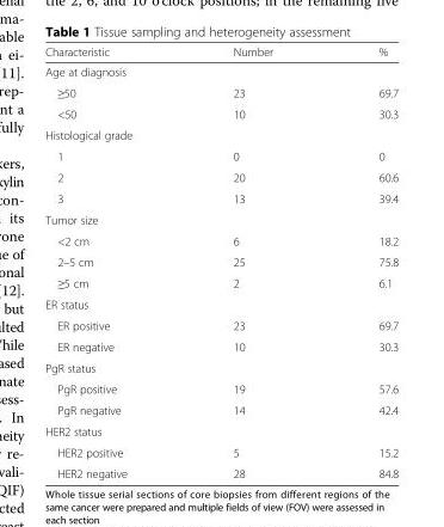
<table><thead><tr><td>Characteristic</td><td>Number</td><td>%</td></tr></thead><tbody><tr><td colspan="3">Age at diagnosis</td></tr><tr><td>≥50</td><td>23</td><td>69.7</td></tr><tr><td>&lt;50</td><td>10</td><td>30.3</td></tr><tr><td colspan="3">Histological grade</td></tr><tr><td>1</td><td>0</td><td>0</td></tr><tr><td>2</td><td>20</td><td>60.6</td></tr><tr><td>3</td><td>13</td><td>39.4</td></tr><tr><td colspan="3">Tumor size</td></tr><tr><td>&lt;2 cm</td><td>6</td><td>18.2</td></tr><tr><td>2–5 cm</td><td>25</td><td>75.8</td></tr><tr><td>≥5 cm</td><td>2</td><td>6.1</td></tr><tr><td colspan="3">ER status</td></tr><tr><td>ER positive</td><td>23</td><td>69.7</td></tr><tr><td>ER negative</td><td>10</td><td>30.3</td></tr><tr><td colspan="3">PgR status</td></tr><tr><td>PgR positive</td><td>19</td><td>57.6</td></tr><tr><td>PgR negative</td><td>14</td><td>42.4</td></tr><tr><td colspan="3">HER2 status</td></tr><tr><td>HER2 positive</td><td>5</td><td>15.2</td></tr><tr><td>HER2 negative</td><td>28</td><td>84.8</td></tr></tbody></table>